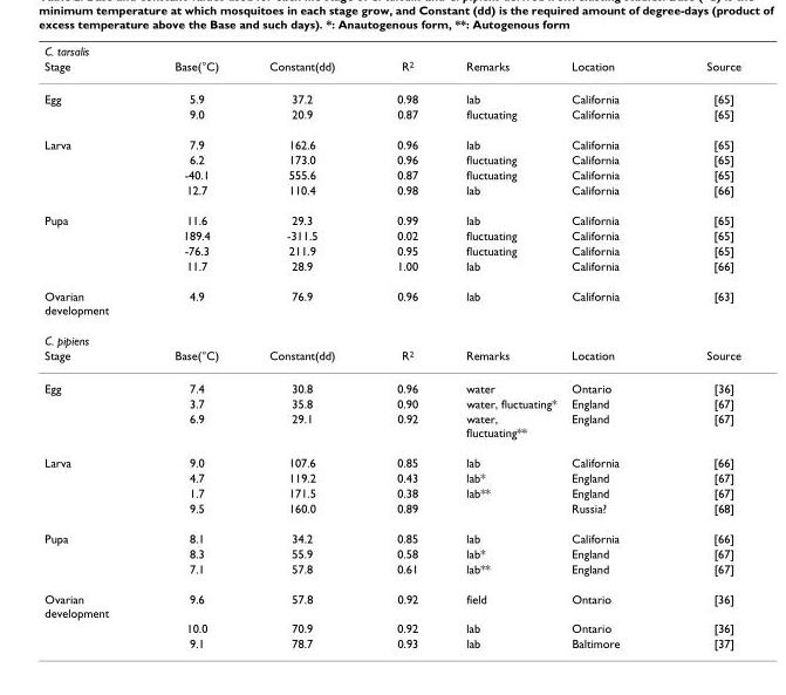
<table><thead><tr><td colspan="7">C. tarsalis</td></tr><tr><td>Stage</td><td>Base(°C)</td><td>Constant(dd)</td><td>R<sup>2</sup></td><td>Remarks</td><td>Location</td><td>Source</td></tr></thead><tbody><tr><td rowspan="2">Egg</td><td>5.9</td><td>37.2</td><td>0.98</td><td>lab</td><td>California</td><td>[65]</td></tr><tr><td>9.0</td><td>20.9</td><td>0.87</td><td>fluctuating</td><td>California</td><td>[65]</td></tr><tr><td rowspan="4">Larva</td><td>7.9</td><td>162.6</td><td>0.96</td><td>lab</td><td>California</td><td>[65]</td></tr><tr><td>6.2</td><td>173.0</td><td>0.96</td><td>fluctuating</td><td>California</td><td>[65]</td></tr><tr><td>-40.1</td><td>555.6</td><td>0.87</td><td>fluctuating</td><td>California</td><td>[65]</td></tr><tr><td>12.7</td><td>110.4</td><td>0.98</td><td>lab</td><td>California</td><td>[66]</td></tr><tr><td rowspan="4">Pupa</td><td>11.6</td><td>29.3</td><td>0.99</td><td>lab</td><td>California</td><td>[65]</td></tr><tr><td>189.4</td><td>-311.5</td><td>0.02</td><td>fluctuating</td><td>California</td><td>[65]</td></tr><tr><td>-76.3</td><td>211.9</td><td>0.95</td><td>fluctuating</td><td>California</td><td>[65]</td></tr><tr><td>11.7</td><td>28.9</td><td>1.00</td><td>lab</td><td>California</td><td>[66]</td></tr><tr><td>Ovarian development</td><td>4.9</td><td>76.9</td><td>0.96</td><td>lab</td><td>California</td><td>[63]</td></tr><tr><td colspan="7">C. pipiens</td></tr><tr><td>Stage</td><td>Base(°C)</td><td>Constant(dd)</td><td>R<sup>2</sup></td><td>Remarks</td><td>Location</td><td>Source</td></tr><tr><td rowspan="3">Egg</td><td>7.4</td><td>30.8</td><td>0.96</td><td>water</td><td>Ontario</td><td>[36]</td></tr><tr><td>3.7</td><td>35.8</td><td>0.90</td><td>water, fluctuating*</td><td>England</td><td>[67]</td></tr><tr><td>6.9</td><td>29.1</td><td>0.92</td><td>water, fluctuating**</td><td>England</td><td>[67]</td></tr><tr><td rowspan="4">Larva</td><td>9.0</td><td>107.6</td><td>0.85</td><td>lab</td><td>California</td><td>[66]</td></tr><tr><td>4.7</td><td>119.2</td><td>0.43</td><td>lab*</td><td>England</td><td>[67]</td></tr><tr><td>1.7</td><td>171.5</td><td>0.38</td><td>lab**</td><td>England</td><td>[67]</td></tr><tr><td>9.5</td><td>160.0</td><td>0.89</td><td></td><td>Russia?</td><td>[68]</td></tr><tr><td rowspan="3">Pupa</td><td>8.1</td><td>34.2</td><td>0.85</td><td>lab</td><td>California</td><td>[66]</td></tr><tr><td>8.3</td><td>55.9</td><td>0.58</td><td>lab*</td><td>England</td><td>[67]</td></tr><tr><td>7.1</td><td>57.8</td><td>0.61</td><td>lab**</td><td>England</td><td>[67]</td></tr><tr><td rowspan="3">Ovarian development</td><td>9.6</td><td>57.8</td><td>0.92</td><td>field</td><td>Ontario</td><td>[36]</td></tr><tr><td>10.0</td><td>70.9</td><td>0.92</td><td>lab</td><td>Ontario</td><td>[36]</td></tr><tr><td>9.1</td><td>78.7</td><td>0.93</td><td>lab</td><td>Baltimore</td><td>[37]</td></tr></tbody></table>